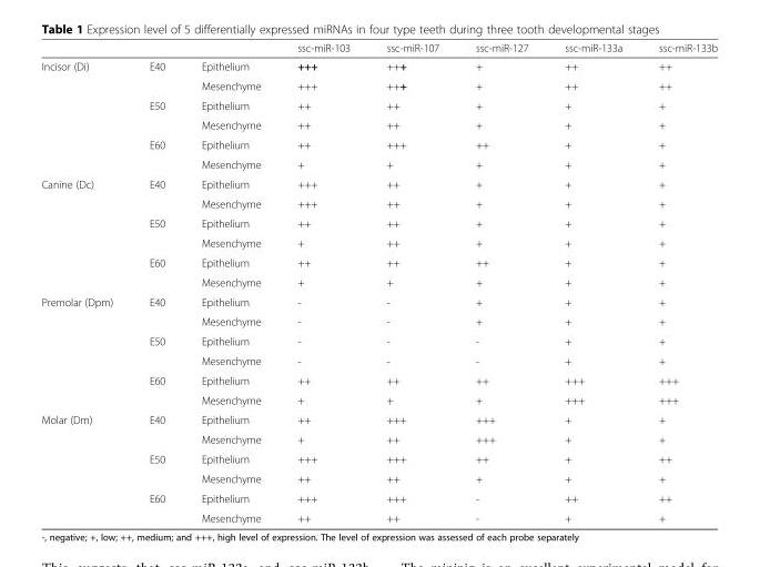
<table><thead><tr><td></td><td></td><td></td><td>ssc-miR-103</td><td>ssc-miR-107</td><td>ssc-miR-127</td><td>ssc-miR-133a</td><td>ssc-miR-133b</td></tr></thead><tbody><tr><td rowspan="6">Incisor (Di)</td><td rowspan="2">E40</td><td>Epithelium</td><td>+++</td><td>+++</td><td>+</td><td>++</td><td>++</td></tr><tr><td>Mesenchyme</td><td>+++</td><td>+++</td><td>+</td><td>++</td><td>++</td></tr><tr><td rowspan="2">E50</td><td>Epithelium</td><td>++</td><td>++</td><td>+</td><td>+</td><td>+</td></tr><tr><td>Mesenchyme</td><td>++</td><td>++</td><td>+</td><td>+</td><td>+</td></tr><tr><td rowspan="2">E60</td><td>Epithelium</td><td>++</td><td>+++</td><td>++</td><td>+</td><td>+</td></tr><tr><td>Mesenchyme</td><td>+</td><td>+</td><td>+</td><td>+</td><td>+</td></tr><tr><td rowspan="6">Canine (Dc)</td><td rowspan="2">E40</td><td>Epithelium</td><td>+++</td><td>++</td><td>+</td><td>+</td><td>+</td></tr><tr><td>Mesenchyme</td><td>+++</td><td>++</td><td>+</td><td>+</td><td>+</td></tr><tr><td rowspan="2">E50</td><td>Epithelium</td><td>++</td><td>++</td><td>+</td><td>+</td><td>+</td></tr><tr><td>Mesenchyme</td><td>+</td><td>++</td><td>+</td><td>+</td><td>+</td></tr><tr><td rowspan="2">E60</td><td>Epithelium</td><td>++</td><td>++</td><td>++</td><td>+</td><td>+</td></tr><tr><td>Mesenchyme</td><td>+</td><td>+</td><td>+</td><td>+</td><td>+</td></tr><tr><td rowspan="6">Premolar (Dpm)</td><td rowspan="2">E40</td><td>Epithelium</td><td>-</td><td>-</td><td>+</td><td>+</td><td>+</td></tr><tr><td>Mesenchyme</td><td>-</td><td>-</td><td>+</td><td>+</td><td>+</td></tr><tr><td rowspan="2">E50</td><td>Epithelium</td><td>-</td><td>-</td><td>-</td><td>+</td><td>+</td></tr><tr><td>Mesenchyme</td><td>-</td><td>-</td><td>-</td><td>+</td><td>+</td></tr><tr><td rowspan="2">E60</td><td>Epithelium</td><td>++</td><td>++</td><td>++</td><td>+++</td><td>+++</td></tr><tr><td>Mesenchyme</td><td>+</td><td>+</td><td>+</td><td>+++</td><td>+++</td></tr><tr><td rowspan="6">Molar (Dm)</td><td rowspan="2">E40</td><td>Epithelium</td><td>++</td><td>+++</td><td>+++</td><td>+</td><td>+</td></tr><tr><td>Mesenchyme</td><td>+</td><td>++</td><td>+++</td><td>+</td><td>+</td></tr><tr><td rowspan="2">E50</td><td>Epithelium</td><td>+++</td><td>+++</td><td>++</td><td>+</td><td>++</td></tr><tr><td>Mesenchyme</td><td>++</td><td>++</td><td>+</td><td>+</td><td>+</td></tr><tr><td rowspan="2">E60</td><td>Epithelium</td><td>+++</td><td>+++</td><td>-</td><td>++</td><td>++</td></tr><tr><td>Mesenchyme</td><td>++</td><td>++</td><td>-</td><td>+</td><td>+</td></tr></tbody></table>